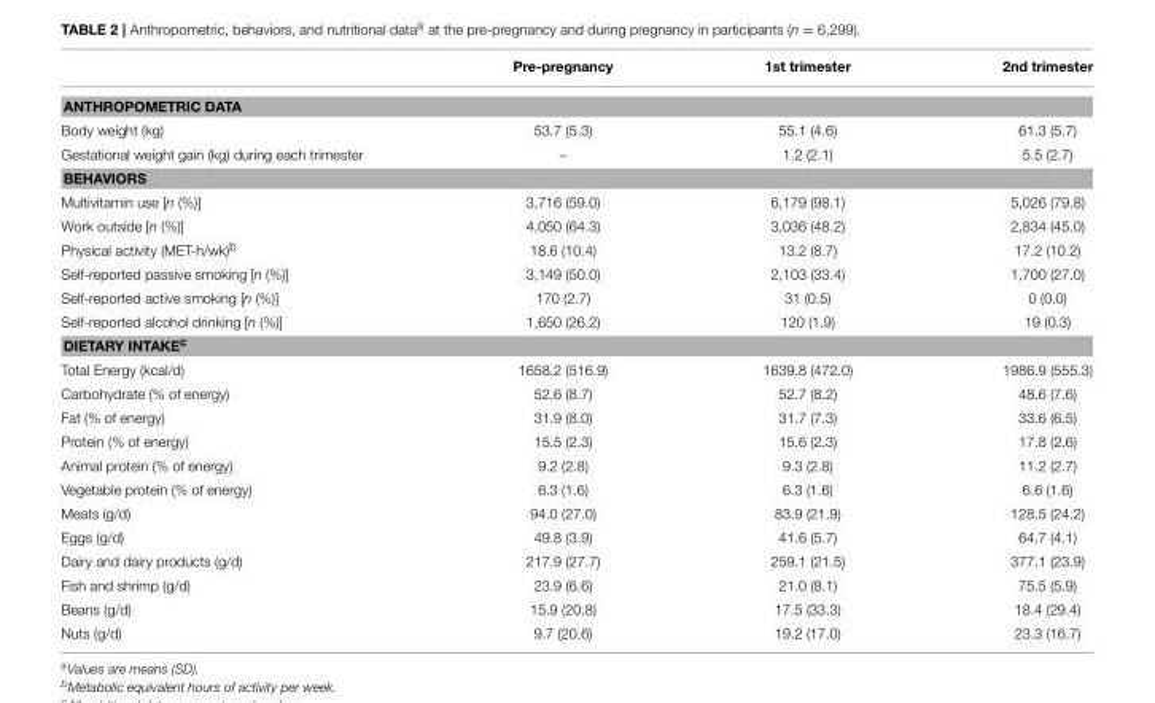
<table><thead><tr><td></td><td>Pre-pregnancy</td><td>1st trimester</td><td>2nd trimester</td></tr></thead><tbody><tr><td colspan="4">ANTHROPOMETRIC DATA</td></tr><tr><td>Body weight (kg)</td><td>53.7 (5.3)</td><td>55.1 (4.6)</td><td>61.3 (5.7)</td></tr><tr><td>Gestational weight gain (kg) during each trimester</td><td>–</td><td>1.2 (2.1)</td><td>5.5 (2.7)</td></tr><tr><td colspan="4">BEHAVIORS</td></tr><tr><td>Multivitamin use [n (%)]</td><td>3,716 (59.0)</td><td>6,179 (98.1)</td><td>5,026 (79.8)</td></tr><tr><td>Work outside [n (%)]</td><td>4,050 (64.3)</td><td>3,036 (48.2)</td><td>2,834 (45.0)</td></tr><tr><td>Physical activity (MET-h/wk)<sup>b</sup></td><td>18.6 (10.4)</td><td>13.2 (8.7)</td><td>17.2 (10.2)</td></tr><tr><td>Self-reported passive smoking [n (%)]</td><td>3,149 (50.0)</td><td>2,103 (33.4)</td><td>1,700 (27.0)</td></tr><tr><td>Self-reported active smoking [n (%)]</td><td>170 (2.7)</td><td>31 (0.5)</td><td>0 (0.0)</td></tr><tr><td>Self-reported alcohol drinking [n (%)]</td><td>1,650 (26.2)</td><td>120 (1.9)</td><td>19 (0.3)</td></tr><tr><td colspan="4">DIETARY INTAKE<sup>c</sup></td></tr><tr><td>Total Energy (kcal/d)</td><td>1658.2 (516.9)</td><td>1639.8 (472.0)</td><td>1986.9 (555.3)</td></tr><tr><td>Carbohydrate (% of energy)</td><td>52.6 (8.7)</td><td>52.7 (8.2)</td><td>48.6 (7.6)</td></tr><tr><td>Fat (% of energy)</td><td>31.9 (8.0)</td><td>31.7 (7.3)</td><td>33.6 (6.5)</td></tr><tr><td>Protein (% of energy)</td><td>15.5 (2.3)</td><td>15.6 (2.3)</td><td>17.8 (2.6)</td></tr><tr><td>Animal protein (% of energy)</td><td>9.2 (2.8)</td><td>9.3 (2.8)</td><td>11.2 (2.7)</td></tr><tr><td>Vegetable protein (% of energy)</td><td>6.3 (1.6)</td><td>6.3 (1.6)</td><td>6.6 (1.6)</td></tr><tr><td>Meats (g/d)</td><td>94.0 (27.0)</td><td>83.9 (21.9)</td><td>128.5 (24.2)</td></tr><tr><td>Eggs (g/d)</td><td>49.8 (3.9)</td><td>41.6 (5.7)</td><td>64.7 (4.1)</td></tr><tr><td>Dairy and dairy products (g/d)</td><td>217.9 (27.7)</td><td>259.1 (21.5)</td><td>377.1 (23.9)</td></tr><tr><td>Fish and shrimp (g/d)</td><td>23.9 (6.6)</td><td>21.0 (8.1)</td><td>75.5 (5.9)</td></tr><tr><td>Beans (g/d)</td><td>15.9 (20.8)</td><td>17.5 (33.3)</td><td>18.4 (29.4)</td></tr><tr><td>Nuts (g/d)</td><td>9.7 (20.6)</td><td>19.2 (17.0)</td><td>23.3 (16.7)</td></tr></tbody></table>